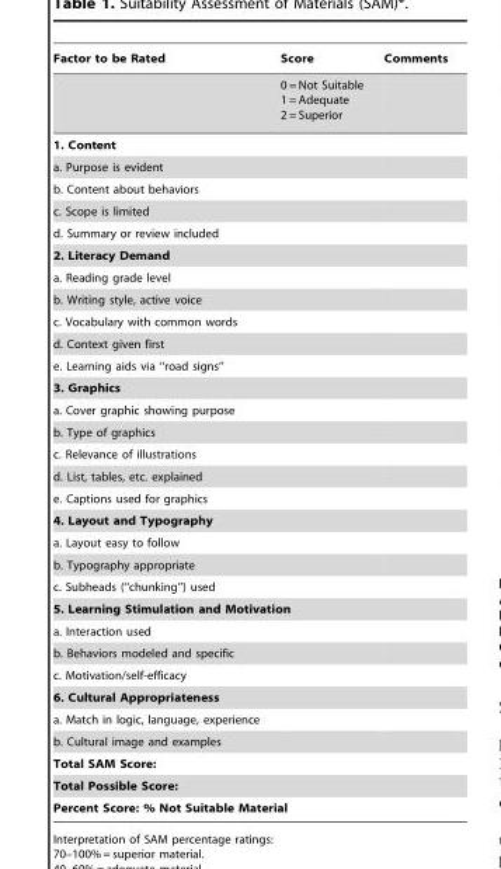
<table><thead><tr><td>Factor to be Rated</td><td>Score</td><td>Comments</td></tr></thead><tbody><tr><td></td><td>0 = Not Suitable 1 = Adequate 2 = Superior</td><td></td></tr><tr><td colspan="3">1. Content</td></tr><tr><td colspan="3">a. Purpose is evident</td></tr><tr><td colspan="3">b. Content about behaviors</td></tr><tr><td colspan="3">c. Scope is limited</td></tr><tr><td colspan="3">d. Summary or review included</td></tr><tr><td colspan="3">2. Literacy Demand</td></tr><tr><td colspan="3">a. Reading grade level</td></tr><tr><td colspan="3">b. Writing style, active voice</td></tr><tr><td colspan="3">c. Vocabulary with common words</td></tr><tr><td colspan="3">d. Context given first</td></tr><tr><td colspan="3">e. Learning aids via ‘‘road signs’’</td></tr><tr><td colspan="3">3. Graphics</td></tr><tr><td colspan="3">a. Cover graphic showing purpose</td></tr><tr><td colspan="3">b. Type of graphics</td></tr><tr><td colspan="3">c. Relevance of illustrations</td></tr><tr><td colspan="3">d. List, tables, etc. explained</td></tr><tr><td colspan="3">e. Captions used for graphics</td></tr><tr><td colspan="3">4. Layout and Typography</td></tr><tr><td colspan="3">a. Layout easy to follow</td></tr><tr><td colspan="3">b. Typography appropriate</td></tr><tr><td colspan="3">c. Subheads (‘‘chunking’’) used</td></tr><tr><td colspan="3">5. Learning Stimulation and Motivation</td></tr><tr><td colspan="3">a. Interaction used</td></tr><tr><td colspan="3">b. Behaviors modeled and specific</td></tr><tr><td colspan="3">c. Motivation/self-efficacy</td></tr><tr><td colspan="3">6. Cultural Appropriateness</td></tr><tr><td colspan="3">a. Match in logic, language, experience</td></tr><tr><td colspan="3">b. Cultural image and examples</td></tr><tr><td colspan="3">Total SAM Score:</td></tr><tr><td colspan="3">Total Possible Score:</td></tr><tr><td colspan="3">Percent Score: % Not Suitable Material</td></tr></tbody></table>